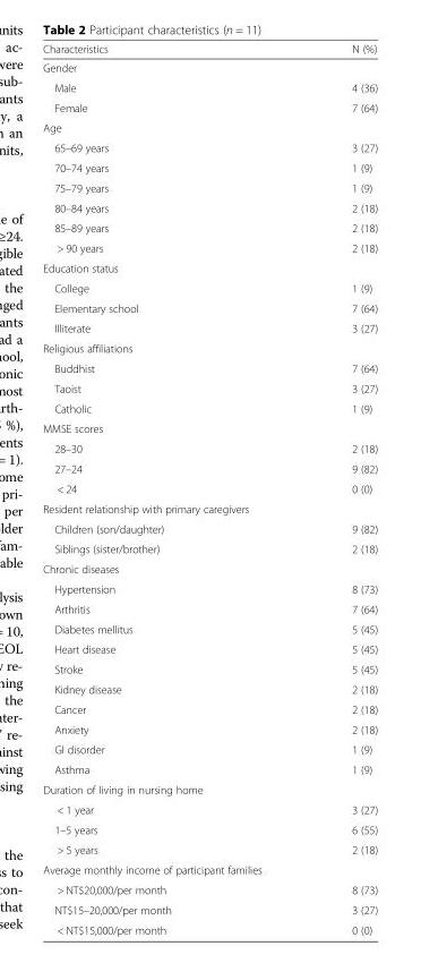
<table><thead><tr><td>Characteristics</td><td>N (%)</td></tr></thead><tbody><tr><td colspan="2">Gender</td></tr><tr><td>Male</td><td>4 (36)</td></tr><tr><td>Female</td><td>7 (64)</td></tr><tr><td colspan="2">Age</td></tr><tr><td>65–69 years</td><td>3 (27)</td></tr><tr><td>70–74 years</td><td>1 (9)</td></tr><tr><td>75–79 years</td><td>1 (9)</td></tr><tr><td>80–84 years</td><td>2 (18)</td></tr><tr><td>85–89 years</td><td>2 (18)</td></tr><tr><td>&gt; 90 years</td><td>2 (18)</td></tr><tr><td colspan="2">Education status</td></tr><tr><td>College</td><td>1 (9)</td></tr><tr><td>Elementary school</td><td>7 (64)</td></tr><tr><td>Illiterate</td><td>3 (27)</td></tr><tr><td colspan="2">Religious affiliations</td></tr><tr><td>Buddhist</td><td>7 (64)</td></tr><tr><td>Taoist</td><td>3 (27)</td></tr><tr><td>Catholic</td><td>1 (9)</td></tr><tr><td colspan="2">MMSE scores</td></tr><tr><td>28–30</td><td>2 (18)</td></tr><tr><td>27–24</td><td>9 (82)</td></tr><tr><td>&lt; 24</td><td>0 (0)</td></tr><tr><td colspan="2">Resident relationship with primary caregivers</td></tr><tr><td>Children (son/daughter)</td><td>9 (82)</td></tr><tr><td>Siblings (sister/brother)</td><td>2 (18)</td></tr><tr><td colspan="2">Chronic diseases</td></tr><tr><td>Hypertension</td><td>8 (73)</td></tr><tr><td>Arthritis</td><td>7 (64)</td></tr><tr><td>Diabetes mellitus</td><td>5 (45)</td></tr><tr><td>Heart disease</td><td>5 (45)</td></tr><tr><td>Stroke</td><td>5 (45)</td></tr><tr><td>Kidney disease</td><td>2 (18)</td></tr><tr><td>Cancer</td><td>2 (18)</td></tr><tr><td>Anxiety</td><td>2 (18)</td></tr><tr><td>GI disorder</td><td>1 (9)</td></tr><tr><td>Asthma</td><td>1 (9)</td></tr><tr><td colspan="2">Duration of living in nursing home</td></tr><tr><td>&lt; 1 year</td><td>3 (27)</td></tr><tr><td>1–5 years</td><td>6 (55)</td></tr><tr><td>&gt; 5 years</td><td>2 (18)</td></tr><tr><td colspan="2">Average monthly income of participant families</td></tr><tr><td>&gt; NT$20,000/per month</td><td>8 (73)</td></tr><tr><td>NT$15–20,000/per month</td><td>3 (27)</td></tr><tr><td>&lt; NT$15,000/per month</td><td>0 (0)</td></tr></tbody></table>